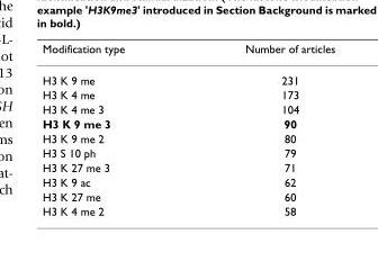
<table><thead><tr><td>Modification type</td><td>Number of articles</td></tr></thead><tbody><tr><td>H3 K 9 me</td><td>231</td></tr><tr><td>H3 K 4 me</td><td>173</td></tr><tr><td>H3 K 4 me 3</td><td>104</td></tr><tr><td>H3 K 9 me 3</td><td>90</td></tr><tr><td>H3 K 9 me 2</td><td>80</td></tr><tr><td>H3 S 10 ph</td><td>79</td></tr><tr><td>H3 K 27 me 3</td><td>71</td></tr><tr><td>H3 K 9 ac</td><td>62</td></tr><tr><td>H3 K 27 me</td><td>60</td></tr><tr><td>H3 K 4 me 2</td><td>58</td></tr></tbody></table>